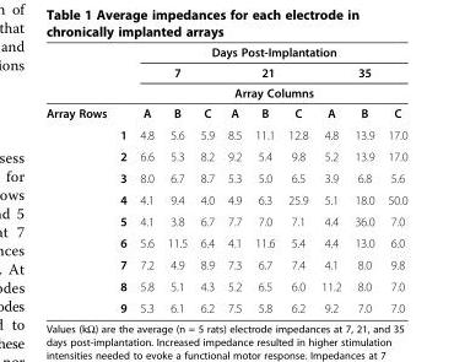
<table><thead><tr><td rowspan="4">Array Rows</td><td rowspan="4"></td><td colspan="9">Days Post-Implantation</td></tr><tr><td colspan="3">7</td><td colspan="3">21</td><td colspan="3">35</td></tr><tr><td colspan="9">Array Columns</td></tr><tr><td>A</td><td>B</td><td>C</td><td>A</td><td>B</td><td>C</td><td>A</td><td>B</td><td>C</td></tr></thead><tbody><tr><td></td><td>1</td><td>4.8</td><td>5.6</td><td>5.9</td><td>8.5</td><td>11.1</td><td>12.8</td><td>4.8</td><td>13.9</td><td>17.0</td></tr><tr><td></td><td>2</td><td>6.6</td><td>5.3</td><td>8.2</td><td>9.2</td><td>5.4</td><td>9.8</td><td>5.2</td><td>13.9</td><td>17.0</td></tr><tr><td></td><td>3</td><td>8.0</td><td>6.7</td><td>8.7</td><td>5.3</td><td>5.0</td><td>6.5</td><td>3.9</td><td>6.8</td><td>5.6</td></tr><tr><td></td><td>4</td><td>4.1</td><td>9.4</td><td>4.0</td><td>4.9</td><td>6.3</td><td>25.9</td><td>5.1</td><td>18.0</td><td>50.0</td></tr><tr><td></td><td>5</td><td>4.1</td><td>3.8</td><td>6.7</td><td>7.7</td><td>7.0</td><td>7.1</td><td>4.4</td><td>36.0</td><td>7.0</td></tr><tr><td></td><td>6</td><td>5.6</td><td>11.5</td><td>6.4</td><td>4.1</td><td>11.6</td><td>5.4</td><td>4.4</td><td>13.0</td><td>6.0</td></tr><tr><td></td><td>7</td><td>7.2</td><td>4.9</td><td>8.9</td><td>7.3</td><td>6.7</td><td>7.4</td><td>4.1</td><td>8.0</td><td>9.8</td></tr><tr><td></td><td>8</td><td>5.8</td><td>5.1</td><td>4.3</td><td>5.2</td><td>6.5</td><td>6.0</td><td>11.2</td><td>8.0</td><td>7.0</td></tr><tr><td></td><td>9</td><td>5.3</td><td>6.1</td><td>6.2</td><td>7.5</td><td>5.8</td><td>6.2</td><td>9.2</td><td>7.0</td><td>7.0</td></tr></tbody></table>